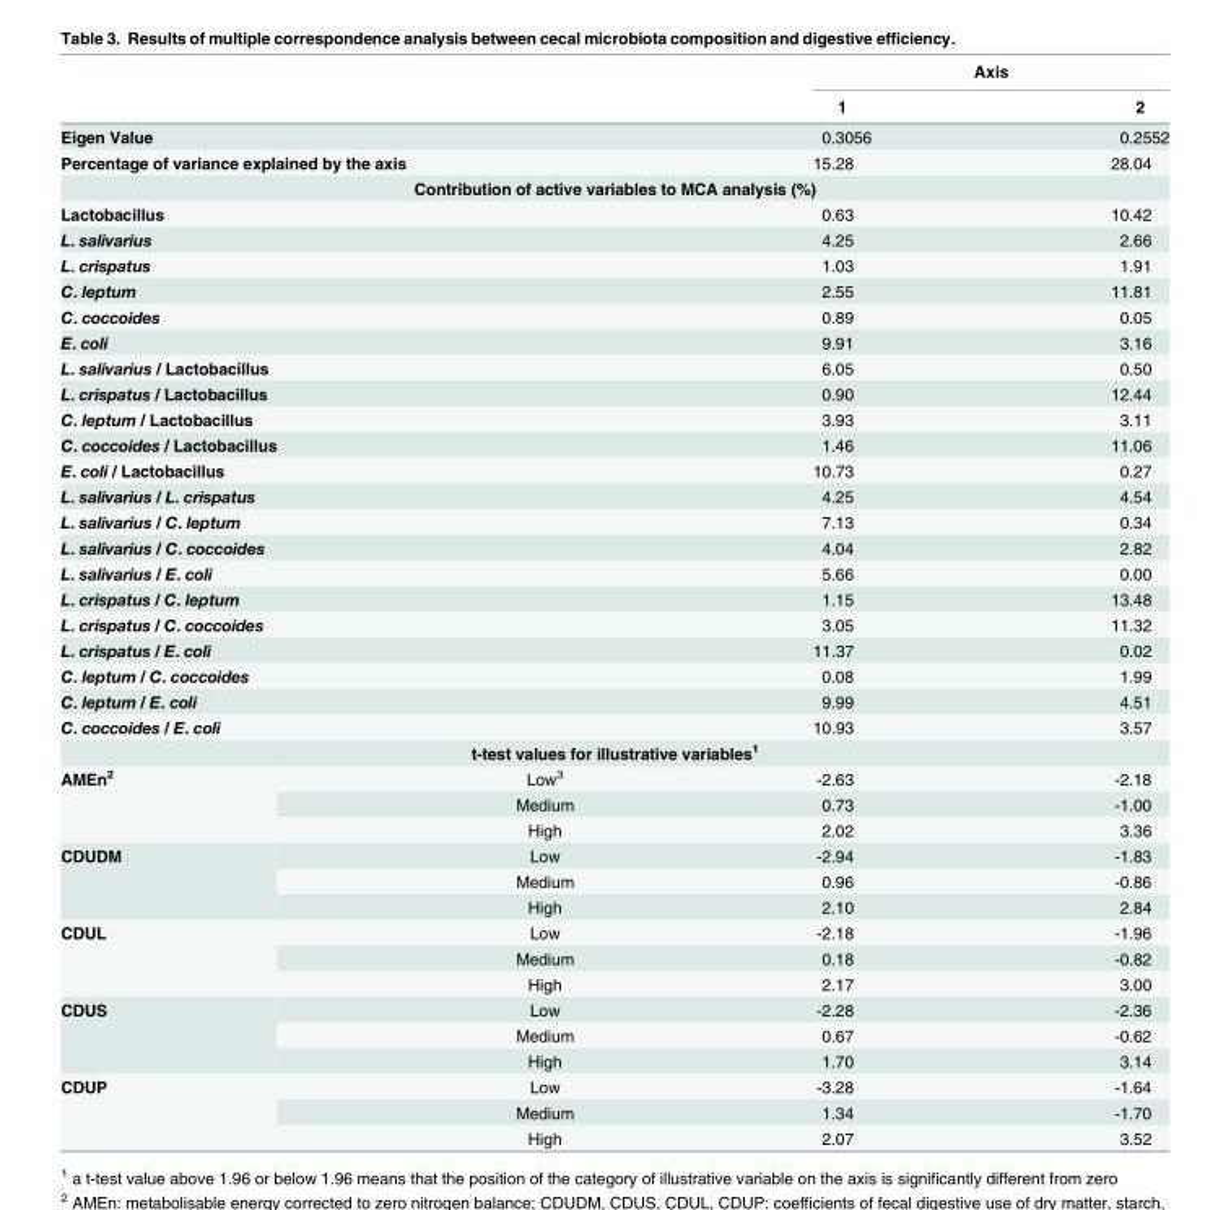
<table><thead><tr><td rowspan="2"></td><td rowspan="2"></td><td colspan="2">Axis</td></tr><tr><td>1</td><td>2</td></tr></thead><tbody><tr><td colspan="2">Eigen Value</td><td>0.3056</td><td>0.2552</td></tr><tr><td colspan="2">Percentage of variance explained by the axis</td><td>15.28</td><td>28.04</td></tr><tr><td colspan="4">Contribution of active variables to MCA analysis (%)</td></tr><tr><td>Lactobacillus</td><td></td><td>0.63</td><td>10.42</td></tr><tr><td>L. salivarius</td><td></td><td>4.25</td><td>2.66</td></tr><tr><td>L. crispatus</td><td></td><td>1.03</td><td>1.91</td></tr><tr><td>C. leptum</td><td></td><td>2.55</td><td>11.81</td></tr><tr><td>C. coccoides</td><td></td><td>0.89</td><td>0.05</td></tr><tr><td>E. coli</td><td></td><td>9.91</td><td>3.16</td></tr><tr><td>L. salivarius / Lactobacillus</td><td></td><td>6.05</td><td>0.50</td></tr><tr><td>L. crispatus / Lactobacillus</td><td></td><td>0.90</td><td>12.44</td></tr><tr><td>C. leptum / Lactobacillus</td><td></td><td>3.93</td><td>3.11</td></tr><tr><td>C. coccoides / Lactobacillus</td><td></td><td>1.46</td><td>11.06</td></tr><tr><td>E. coli / Lactobacillus</td><td></td><td>10.73</td><td>0.27</td></tr><tr><td>L. salivarius / L. crispatus</td><td></td><td>4.25</td><td>4.54</td></tr><tr><td>L. salivarius / C. leptum</td><td></td><td>7.13</td><td>0.34</td></tr><tr><td>L. salivarius / C. coccoides</td><td></td><td>4.04</td><td>2.82</td></tr><tr><td>L. salivarius / E. coli</td><td></td><td>5.66</td><td>0.00</td></tr><tr><td>L. crispatus / C. leptum</td><td></td><td>1.15</td><td>13.48</td></tr><tr><td>L. crispatus / C. coccoides</td><td></td><td>3.05</td><td>11.32</td></tr><tr><td>L. crispatus / E. coli</td><td></td><td>11.37</td><td>0.02</td></tr><tr><td>C. leptum / C. coccoides</td><td></td><td>0.08</td><td>1.99</td></tr><tr><td>C. leptum / E. coli</td><td></td><td>9.99</td><td>4.51</td></tr><tr><td>C. coccoides / E. coli</td><td></td><td>10.93</td><td>3.57</td></tr><tr><td colspan="4">t-test values for illustrative variables<sup>1</sup></td></tr><tr><td rowspan="3">AMEn<sup>2</sup></td><td>Low<sup>3</sup></td><td>-2.63</td><td>-2.18</td></tr><tr><td>Medium</td><td>0.73</td><td>-1.00</td></tr><tr><td>High</td><td>2.02</td><td>3.36</td></tr><tr><td rowspan="3">CDUDM</td><td>Low</td><td>-2.94</td><td>-1.83</td></tr><tr><td>Medium</td><td>0.96</td><td>-0.86</td></tr><tr><td>High</td><td>2.10</td><td>2.84</td></tr><tr><td rowspan="3">CDUL</td><td>Low</td><td>-2.18</td><td>-1.96</td></tr><tr><td>Medium</td><td>0.18</td><td>-0.82</td></tr><tr><td>High</td><td>2.17</td><td>3.00</td></tr><tr><td rowspan="3">CDUS</td><td>Low</td><td>-2.28</td><td>-2.36</td></tr><tr><td>Medium</td><td>0.67</td><td>-0.62</td></tr><tr><td>High</td><td>1.70</td><td>3.14</td></tr><tr><td rowspan="3">CDUP</td><td>Low</td><td>-3.28</td><td>-1.64</td></tr><tr><td>Medium</td><td>1.34</td><td>-1.70</td></tr><tr><td>High</td><td>2.07</td><td>3.52</td></tr></tbody></table>